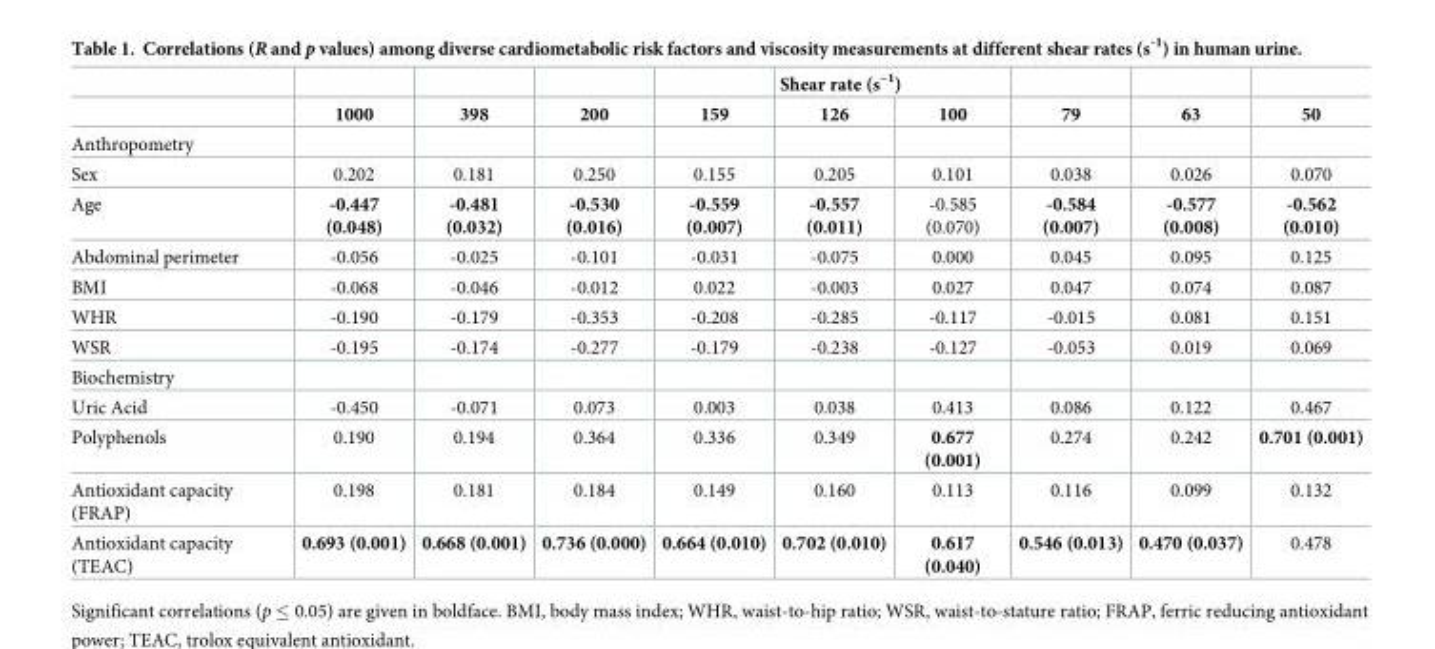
<table><thead><tr><td rowspan="2"></td><td rowspan="2">1000</td><td rowspan="2">398</td><td rowspan="2">200</td><td rowspan="2">159</td><td colspan="2">Shear rate (s<sup>–1</sup>)</td><td rowspan="2">79</td><td rowspan="2">63</td><td rowspan="2">50</td></tr><tr><td>126</td><td>100</td></tr></thead><tbody><tr><td colspan="10">Anthropometry</td></tr><tr><td>Sex</td><td>0.202</td><td>0.181</td><td>0.250</td><td>0.155</td><td>0.205</td><td>0.101</td><td>0.038</td><td>0.026</td><td>0.070</td></tr><tr><td>Age</td><td>-0.447 (0.048)</td><td>-0.481 (0.032)</td><td>-0.530 (0.016)</td><td>-0.559 (0.007)</td><td>-0.557 (0.011)</td><td>-0.585 (0.070)</td><td>-0.584 (0.007)</td><td>-0.577 (0.008)</td><td>-0.562 (0.010)</td></tr><tr><td>Abdominal perimeter</td><td>-0.056</td><td>-0.025</td><td>-0.101</td><td>-0.031</td><td>-0.075</td><td>0.000</td><td>0.045</td><td>0.095</td><td>0.125</td></tr><tr><td>BMI</td><td>-0.068</td><td>-0.046</td><td>-0.012</td><td>0.022</td><td>-0.003</td><td>0.027</td><td>0.047</td><td>0.074</td><td>0.087</td></tr><tr><td>WHR</td><td>-0.190</td><td>-0.179</td><td>-0.353</td><td>-0.208</td><td>-0.285</td><td>-0.117</td><td>-0.015</td><td>0.081</td><td>0.151</td></tr><tr><td>WSR</td><td>-0.195</td><td>-0.174</td><td>-0.277</td><td>-0.179</td><td>-0.238</td><td>-0.127</td><td>-0.053</td><td>0.019</td><td>0.069</td></tr><tr><td colspan="10">Biochemistry</td></tr><tr><td>Uric Acid</td><td>-0.450</td><td>-0.071</td><td>0.073</td><td>0.003</td><td>0.038</td><td>0.413</td><td>0.086</td><td>0.122</td><td>0.467</td></tr><tr><td>Polyphenols</td><td>0.190</td><td>0.194</td><td>0.364</td><td>0.336</td><td>0.349</td><td>0.677 (0.001)</td><td>0.274</td><td>0.242</td><td>0.701 (0.001)</td></tr><tr><td>Antioxidant capacity (FRAP)</td><td>0.198</td><td>0.181</td><td>0.184</td><td>0.149</td><td>0.160</td><td>0.113</td><td>0.116</td><td>0.099</td><td>0.132</td></tr><tr><td>Antioxidant capacity (TEAC)</td><td>0.693 (0.001)</td><td>0.668 (0.001)</td><td>0.736 (0.000)</td><td>0.664 (0.010)</td><td>0.702 (0.010)</td><td>0.617 (0.040)</td><td>0.546 (0.013)</td><td>0.470 (0.037)</td><td>0.478</td></tr></tbody></table>